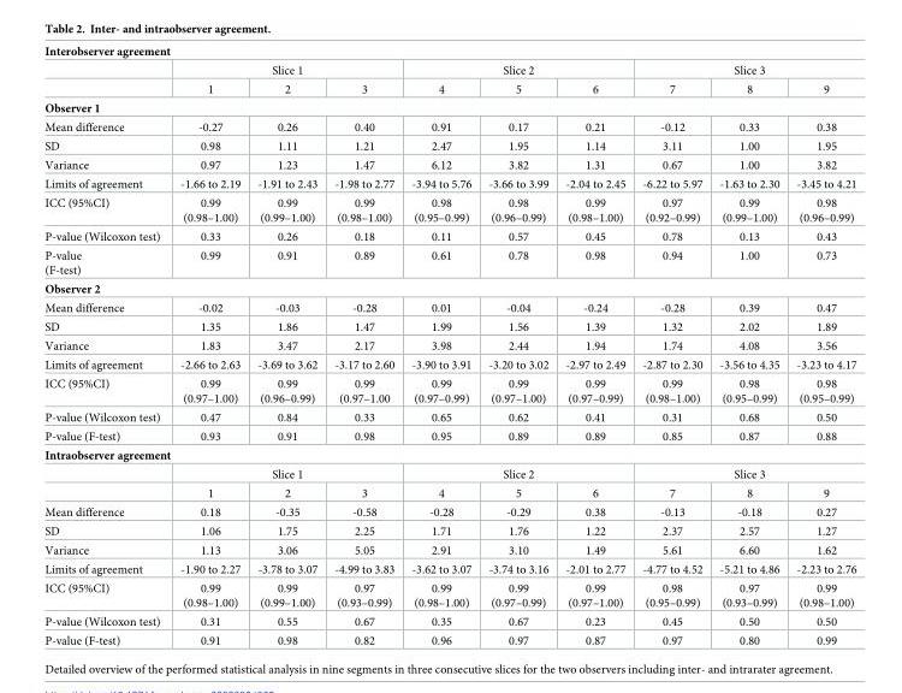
<table><tbody><tr><td colspan="10">Interobserver agreement</td></tr><tr><td></td><td colspan="3">Slice 1</td><td colspan="3">Slice 2</td><td colspan="3">Slice 3</td></tr><tr><td></td><td>1</td><td>2</td><td>3</td><td>4</td><td>5</td><td>6</td><td>7</td><td>8</td><td>9</td></tr><tr><td colspan="10">Observer 1</td></tr><tr><td>Mean difference</td><td>-0.27</td><td>0.26</td><td>0.40</td><td>0.91</td><td>0.17</td><td>0.21</td><td>-0.12</td><td>0.33</td><td>0.38</td></tr><tr><td>SD</td><td>0.98</td><td>1.11</td><td>1.21</td><td>2.47</td><td>1.95</td><td>1.14</td><td>3.11</td><td>1.00</td><td>1.95</td></tr><tr><td>Variance</td><td>0.97</td><td>1.23</td><td>1.47</td><td>6.12</td><td>3.82</td><td>1.31</td><td>0.67</td><td>1.00</td><td>3.82</td></tr><tr><td>Limits of agreement</td><td>-1.66 to 2.19</td><td>-1.91 to 2.43</td><td>-1.98 to 2.77</td><td>-3.94 to 5.76</td><td>-3.66 to 3.99</td><td>-2.04 to 2.45</td><td>-6.22 to 5.97</td><td>-1.63 to 2.30</td><td>-3.45 to 4.21</td></tr><tr><td>ICC (95%CI)</td><td>0.99 (0.98–1.00)</td><td>0.99 (0.99–1.00)</td><td>0.99 (0.98–1.00)</td><td>0.98 (0.95–0.99)</td><td>0.98 (0.96–0.99)</td><td>0.99 (0.98–1.00)</td><td>0.97 (0.92–0.99)</td><td>0.99 (0.99–1.00)</td><td>0.98 (0.96–0.99)</td></tr><tr><td>P-value (Wilcoxon test)</td><td>0.33</td><td>0.26</td><td>0.18</td><td>0.11</td><td>0.57</td><td>0.45</td><td>0.78</td><td>0.13</td><td>0.43</td></tr><tr><td>P-value (F-test)</td><td>0.99</td><td>0.91</td><td>0.89</td><td>0.61</td><td>0.78</td><td>0.98</td><td>0.94</td><td>1.00</td><td>0.73</td></tr><tr><td colspan="10">Observer 2</td></tr><tr><td>Mean difference</td><td>-0.02</td><td>-0.03</td><td>-0.28</td><td>0.01</td><td>-0.04</td><td>-0.24</td><td>-0.28</td><td>0.39</td><td>0.47</td></tr><tr><td>SD</td><td>1.35</td><td>1.86</td><td>1.47</td><td>1.99</td><td>1.56</td><td>1.39</td><td>1.32</td><td>2.02</td><td>1.89</td></tr><tr><td>Variance</td><td>1.83</td><td>3.47</td><td>2.17</td><td>3.98</td><td>2.44</td><td>1.94</td><td>1.74</td><td>4.08</td><td>3.56</td></tr><tr><td>Limits of agreement</td><td>-2.66 to 2.63</td><td>-3.69 to 3.62</td><td>-3.17 to 2.60</td><td>-3.90 to 3.91</td><td>-3.20 to 3.02</td><td>-2.97 to 2.49</td><td>-2.87 to 2.30</td><td>-3.56 to 4.35</td><td>-3.23 to 4.17</td></tr><tr><td>ICC (95%CI)</td><td>0.99 (0.97–1.00)</td><td>0.99 (0.96–0.99)</td><td>0.99 (0.97–1.00</td><td>0.99 (0.97–0.99)</td><td>0.99 (0.97–1.00)</td><td>0.99 (0.97–0.99)</td><td>0.99 (0.98–1.00)</td><td>0.98 (0.95–0.99)</td><td>0.98 (0.95–0.99)</td></tr><tr><td>P-value (Wilcoxon test)</td><td>0.47</td><td>0.84</td><td>0.33</td><td>0.65</td><td>0.62</td><td>0.41</td><td>0.31</td><td>0.68</td><td>0.50</td></tr><tr><td>P-value (F-test)</td><td>0.93</td><td>0.91</td><td>0.98</td><td>0.95</td><td>0.89</td><td>0.89</td><td>0.85</td><td>0.87</td><td>0.88</td></tr><tr><td colspan="10">Intraobserver agreement</td></tr><tr><td></td><td colspan="3">Slice 1</td><td colspan="3">Slice 2</td><td colspan="3">Slice 3</td></tr><tr><td></td><td>1</td><td>2</td><td>3</td><td>4</td><td>5</td><td>6</td><td>7</td><td>8</td><td>9</td></tr><tr><td>Mean difference</td><td>0.18</td><td>-0.35</td><td>-0.58</td><td>-0.28</td><td>-0.29</td><td>0.38</td><td>-0.13</td><td>-0.18</td><td>0.27</td></tr><tr><td>SD</td><td>1.06</td><td>1.75</td><td>2.25</td><td>1.71</td><td>1.76</td><td>1.22</td><td>2.37</td><td>2.57</td><td>1.27</td></tr><tr><td>Variance</td><td>1.13</td><td>3.06</td><td>5.05</td><td>2.91</td><td>3.10</td><td>1.49</td><td>5.61</td><td>6.60</td><td>1.62</td></tr><tr><td>Limits of agreement</td><td>-1.90 to 2.27</td><td>-3.78 to 3.07</td><td>-4.99 to 3.83</td><td>-3.62 to 3.07</td><td>-3.74 to 3.16</td><td>-2.01 to 2.77</td><td>-4.77 to 4.52</td><td>-5.21 to 4.86</td><td>-2.23 to 2.76</td></tr><tr><td>ICC (95%CI)</td><td>0.99 (0.98–1.00)</td><td>0.99 (0.99–1.00)</td><td>0.97 (0.93–0.99)</td><td>0.99 (0.98–1.00)</td><td>0.99 (0.97–0.99)</td><td>0.99 (0.97–1.00)</td><td>0.98 (0.95–0.99)</td><td>0.97 (0.93–0.99)</td><td>0.99 (0.98–1.00)</td></tr><tr><td>P-value (Wilcoxon test)</td><td>0.31</td><td>0.55</td><td>0.67</td><td>0.35</td><td>0.67</td><td>0.23</td><td>0.45</td><td>0.50</td><td>0.50</td></tr><tr><td>P-value (F-test)</td><td>0.91</td><td>0.98</td><td>0.82</td><td>0.96</td><td>0.97</td><td>0.87</td><td>0.97</td><td>0.80</td><td>0.99</td></tr></tbody></table>